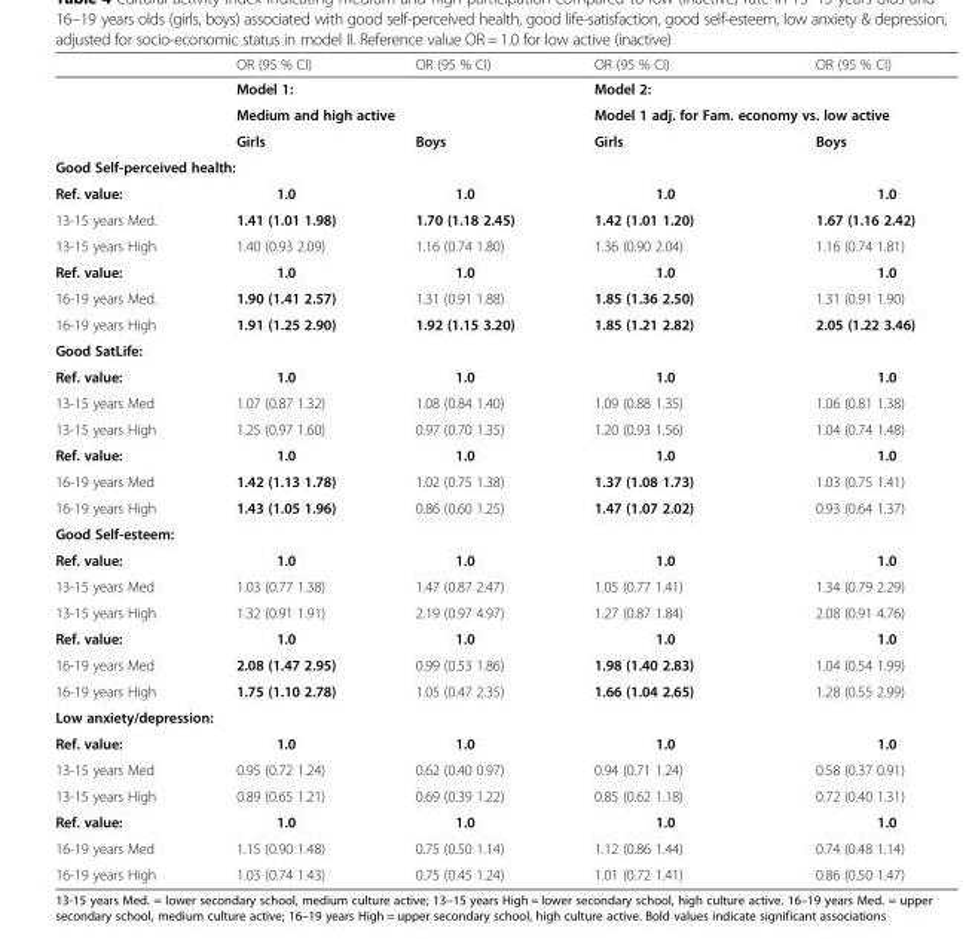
<table><thead><tr><td></td><td>OR (95 % CI)</td><td>OR (95 % CI)</td><td>OR (95 % CI)</td><td>OR (95 % CI)</td></tr></thead><tbody><tr><td></td><td colspan="2">Model 1:</td><td colspan="2">Model 2:</td></tr><tr><td></td><td colspan="2">Medium and high active</td><td colspan="2">Model 1 adj. for Fam. economy vs. low active</td></tr><tr><td></td><td>Girls</td><td>Boys</td><td>Girls</td><td>Boys</td></tr><tr><td colspan="5">Good Self-perceived health:</td></tr><tr><td>Ref. value:</td><td>1.0</td><td>1.0</td><td>1.0</td><td>1.0</td></tr><tr><td>13-15 years Med.</td><td>1.41 (1.01 1.98)</td><td>1.70 (1.18 2.45)</td><td>1.42 (1.01 1.20)</td><td>1.67 (1.16 2.42)</td></tr><tr><td>13-15 years High</td><td>1.40 (0.93 2.09)</td><td>1.16 (0.74 1.80)</td><td>1.36 (0.90 2.04)</td><td>1.16 (0.74 1.81)</td></tr><tr><td>Ref. value:</td><td>1.0</td><td>1.0</td><td>1.0</td><td>1.0</td></tr><tr><td>16-19 years Med.</td><td>1.90 (1.41 2.57)</td><td>1.31 (0.91 1.88)</td><td>1.85 (1.36 2.50)</td><td>1.31 (0.91 1.90)</td></tr><tr><td>16-19 years High</td><td>1.91 (1.25 2.90)</td><td>1.92 (1.15 3.20)</td><td>1.85 (1.21 2.82)</td><td>2.05 (1.22 3.46)</td></tr><tr><td colspan="5">Good SatLife:</td></tr><tr><td>Ref. value:</td><td>1.0</td><td>1.0</td><td>1.0</td><td>1.0</td></tr><tr><td>13-15 years Med</td><td>1.07 (0.87 1.32)</td><td>1.08 (0.84 1.40)</td><td>1.09 (0.88 1.35)</td><td>1.06 (0.81 1.38)</td></tr><tr><td>13-15 years High</td><td>1.25 (0.97 1.60)</td><td>0.97 (0.70 1.35)</td><td>1.20 (0.93 1.56)</td><td>1.04 (0.74 1.48)</td></tr><tr><td>Ref. value:</td><td>1.0</td><td>1.0</td><td>1.0</td><td>1.0</td></tr><tr><td>16-19 years Med</td><td>1.42 (1.13 1.78)</td><td>1.02 (0.75 1.38)</td><td>1.37 (1.08 1.73)</td><td>1.03 (0.75 1.41)</td></tr><tr><td>16-19 years High</td><td>1.43 (1.05 1.96)</td><td>0.86 (0.60 1.25)</td><td>1.47 (1.07 2.02)</td><td>0.93 (0.64 1.37)</td></tr><tr><td colspan="5">Good Self-esteem:</td></tr><tr><td>Ref. value:</td><td>1.0</td><td>1.0</td><td>1.0</td><td>1.0</td></tr><tr><td>13-15 years Med</td><td>1.03 (0.77 1.38)</td><td>1.47 (0.87 2.47)</td><td>1.05 (0.77 1.41)</td><td>1.34 (0.79 2.29)</td></tr><tr><td>13-15 years High</td><td>1.32 (0.91 1.91)</td><td>2.19 (0.97 4.97)</td><td>1.27 (0.87 1.84)</td><td>2.08 (0.91 4.76)</td></tr><tr><td>Ref. value:</td><td>1.0</td><td>1.0</td><td>1.0</td><td>1.0</td></tr><tr><td>16-19 years Med</td><td>2.08 (1.47 2.95)</td><td>0.99 (0.53 1.86)</td><td>1.98 (1.40 2.83)</td><td>1.04 (0.54 1.99)</td></tr><tr><td>16-19 years High</td><td>1.75 (1.10 2.78)</td><td>1.05 (0.47 2.35)</td><td>1.66 (1.04 2.65)</td><td>1.28 (0.55 2.99)</td></tr><tr><td colspan="5">Low anxiety/depression:</td></tr><tr><td>Ref. value:</td><td>1.0</td><td>1.0</td><td>1.0</td><td>1.0</td></tr><tr><td>13-15 years Med</td><td>0.95 (0.72 1.24)</td><td>0.62 (0.40 0.97)</td><td>0.94 (0.71 1.24)</td><td>0.58 (0.37 0.91)</td></tr><tr><td>13-15 years High</td><td>0.89 (0.65 1.21)</td><td>0.69 (0.39 1.22)</td><td>0.85 (0.62 1.18)</td><td>0.72 (0.40 1.31)</td></tr><tr><td>Ref. value:</td><td>1.0</td><td>1.0</td><td>1.0</td><td>1.0</td></tr><tr><td>16-19 years Med</td><td>1.15 (0.90 1.48)</td><td>0.75 (0.50 1.14)</td><td>1.12 (0.86 1.44)</td><td>0.74 (0.48 1.14)</td></tr><tr><td>16-19 years High</td><td>1.03 (0.74 1.43)</td><td>0.75 (0.45 1.24)</td><td>1.01 (0.72 1.41)</td><td>0.86 (0.50 1.47)</td></tr></tbody></table>